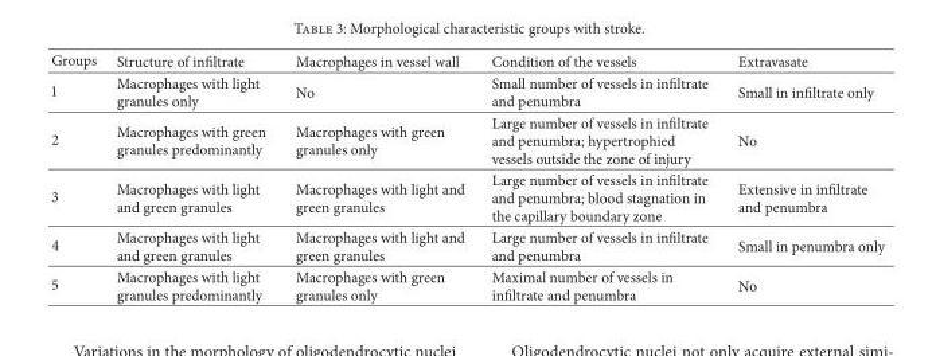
<table><thead><tr><td>Groups</td><td>Structure of infiltrate</td><td>Macrophages in vessel wall</td><td>Condition of the vessels</td><td>Extravasate</td></tr></thead><tbody><tr><td>1</td><td>Macrophages with light granules only</td><td>No</td><td>Small number of vessels in infiltrate and penumbra</td><td>Small in infiltrate only</td></tr><tr><td>2</td><td>Macrophages with green granules predominantly</td><td>Macrophages with green granules only</td><td>Large number of vessels in infiltrate and penumbra; hypertrophied vessels outside the zone of injury</td><td>No</td></tr><tr><td>3</td><td>Macrophages with light and green granules</td><td>Macrophages with light and green granules</td><td>Large number of vessels in infiltrate and penumbra; blood stagnation in the capillary boundary zone</td><td>Extensive in infiltrate and penumbra</td></tr><tr><td>4</td><td>Macrophages with light and green granules</td><td>Macrophages with light and green granules</td><td>Large number of vessels in infiltrate and penumbra</td><td>Small in penumbra only</td></tr><tr><td>5</td><td>Macrophages with light granules predominantly</td><td>Macrophages with green granules only</td><td>Maximal number of vessels in infiltrate and penumbra</td><td>No</td></tr></tbody></table>